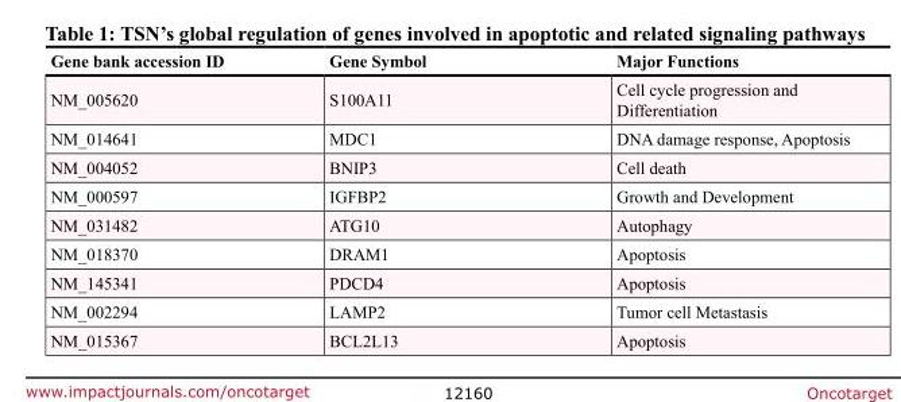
<table><thead><tr><td>Gene bank accession ID</td><td>Gene Symbol</td><td>Major Functions</td></tr></thead><tbody><tr><td>NM_005620</td><td>S100A11</td><td>Cell cycle progression and Differentiation</td></tr><tr><td>NM_014641</td><td>MDC1</td><td>DNA damage response, Apoptosis</td></tr><tr><td>NM_004052</td><td>BNIP3</td><td>Cell death</td></tr><tr><td>NM_000597</td><td>IGFBP2</td><td>Growth and Development</td></tr><tr><td>NM_031482</td><td>ATG10</td><td>Autophagy</td></tr><tr><td>NM_018370</td><td>DRAM1</td><td>Apoptosis</td></tr><tr><td>NM_145341</td><td>PDCD4</td><td>Apoptosis</td></tr><tr><td>NM_002294</td><td>LAMP2</td><td>Tumor cell Metastasis</td></tr><tr><td>NM_015367</td><td>BCL2L13</td><td>Apoptosis</td></tr></tbody></table>